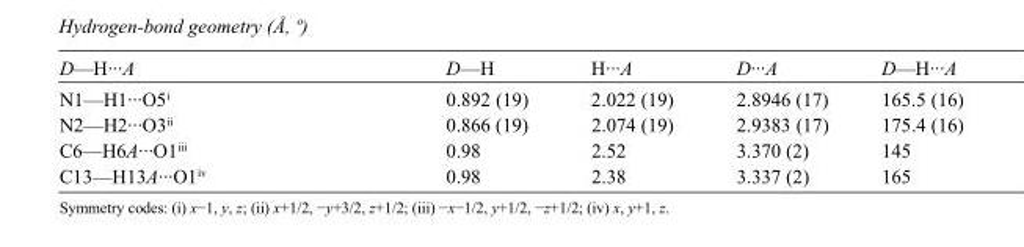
<table><tbody><tr><td>D—H···A</td><td>D—H</td><td>H···A</td><td>D···A</td><td>D—H···A</td></tr><tr><td>N1—H1···O5<sup>i</sup></td><td>0.892 (19)</td><td>2.022 (19)</td><td>2.8946 (17)</td><td>165.5 (16)</td></tr><tr><td>N2—H2···O3<sup>ii</sup></td><td>0.866 (19)</td><td>2.074 (19)</td><td>2.9383 (17)</td><td>175.4 (16)</td></tr><tr><td>C6—H6A···O1<sup>iii</sup></td><td>0.98</td><td>2.52</td><td>3.370 (2)</td><td>145</td></tr><tr><td>C13—H13A···O1<sup>iv</sup></td><td>0.98</td><td>2.38</td><td>3.337 (2)</td><td>165</td></tr></tbody></table>